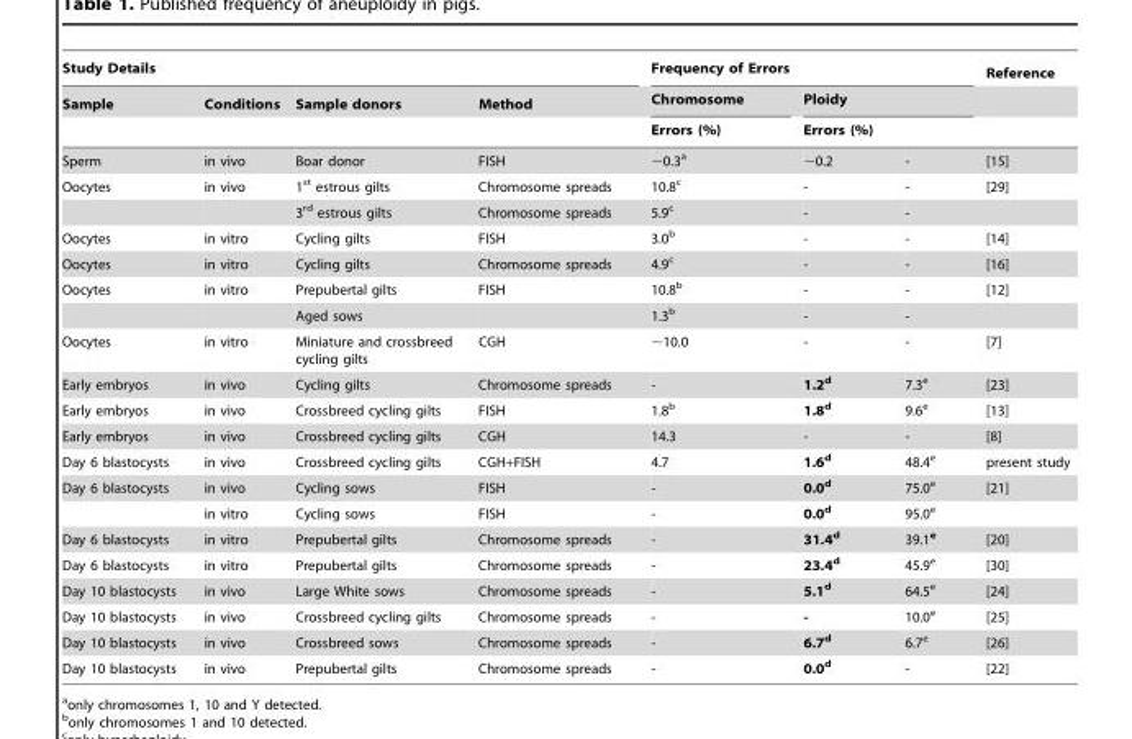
<table><thead><tr><td colspan="4">Study Details</td><td colspan="3">Frequency of Errors</td><td rowspan="4">Reference [15]</td></tr><tr><td rowspan="3">Sample Sperm</td><td rowspan="3">Conditions in vivo</td><td rowspan="3">Sample donors Boar donor</td><td rowspan="3">Method FISH</td><td rowspan="3">Chromosome Errors (%) ∼0.3<sup>a</sup></td><td rowspan="2" colspan="2">Ploidy Errors (%)</td></tr><tr></tr><tr><td>∼0.2</td><td>-</td></tr></thead><tbody><tr><td rowspan="2">Oocytes</td><td>in vivo</td><td>1<sup>st</sup> estrous gilts</td><td>Chromosome spreads</td><td>10.8<sup>c</sup></td><td>-</td><td>-</td><td>[29]</td></tr><tr><td></td><td>3<sup>rd</sup> estrous gilts</td><td>Chromosome spreads</td><td>5.9<sup>c</sup></td><td>-</td><td>-</td><td></td></tr><tr><td>Oocytes</td><td>in vitro</td><td>Cycling gilts</td><td>FISH</td><td>3.0<sup>b</sup></td><td>-</td><td>-</td><td>[14]</td></tr><tr><td>Oocytes</td><td>in vitro</td><td>Cycling gilts</td><td>Chromosome spreads</td><td>4.9<sup>c</sup></td><td>-</td><td>-</td><td>[16]</td></tr><tr><td rowspan="2">Oocytes</td><td>in vitro</td><td>Prepubertal gilts</td><td>FISH</td><td>10.8<sup>b</sup></td><td>-</td><td>-</td><td>[12]</td></tr><tr><td></td><td>Aged sows</td><td></td><td>1.3<sup>b</sup></td><td>-</td><td>-</td><td></td></tr><tr><td>Oocytes</td><td>in vitro</td><td>Miniature and crossbreed cycling gilts</td><td>CGH</td><td>∼10.0</td><td>-</td><td>-</td><td>[7]</td></tr><tr><td>Early embryos</td><td>in vivo</td><td>Cycling gilts</td><td>Chromosome spreads</td><td>-</td><td>1.2d</td><td>7.3<sup>e</sup></td><td>[23]</td></tr><tr><td>Early embryos</td><td>in vivo</td><td>Crossbreed cycling gilts</td><td>FISH</td><td>1.8<sup>b</sup></td><td>1.8d</td><td>9.6<sup>e</sup></td><td>[13]</td></tr><tr><td>Early embryos</td><td>in vivo</td><td>Crossbreed cycling gilts</td><td>CGH</td><td>14.3</td><td>-</td><td>-</td><td>[8]</td></tr><tr><td>Day 6 blastocysts</td><td>in vivo</td><td>Crossbreed cycling gilts</td><td>CGH+FISH</td><td>4.7</td><td>1.6d</td><td>48.4<sup>e</sup></td><td>present study</td></tr><tr><td rowspan="2">Day 6 blastocysts</td><td>in vivo</td><td>Cycling sows</td><td>FISH</td><td>-</td><td>0.0d</td><td>75.0<sup>e</sup></td><td>[21]</td></tr><tr><td>in vitro</td><td>Cycling sows</td><td>FISH</td><td>-</td><td>0.0d</td><td>95.0<sup>e</sup></td><td></td></tr><tr><td>Day 6 blastocysts</td><td>in vitro</td><td>Prepubertal gilts</td><td>Chromosome spreads</td><td>-</td><td>31.4d</td><td>39.1<sup>e</sup></td><td>[20]</td></tr><tr><td>Day 6 blastocysts</td><td>in vitro</td><td>Prepubertal gilts</td><td>Chromosome spreads</td><td>-</td><td>23.4d</td><td>45.9<sup>e</sup></td><td>[30]</td></tr><tr><td>Day 10 blastocysts</td><td>in vivo</td><td>Large White sows</td><td>Chromosome spreads</td><td>-</td><td>5.1d</td><td>64.5<sup>e</sup></td><td>[24]</td></tr><tr><td>Day 10 blastocysts</td><td>in vivo</td><td>Crossbreed cycling gilts</td><td>Chromosome spreads</td><td>-</td><td>-</td><td>10.0<sup>e</sup></td><td>[25]</td></tr><tr><td>Day 10 blastocysts</td><td>in vivo</td><td>Crossbreed sows</td><td>Chromosome spreads</td><td>-</td><td>6.7d</td><td>6.7<sup>e</sup></td><td>[26]</td></tr><tr><td>Day 10 blastocysts</td><td>in vivo</td><td>Prepubertal gilts</td><td>Chromosome spreads</td><td>-</td><td>0.0d</td><td>-</td><td>[22]</td></tr></tbody></table>